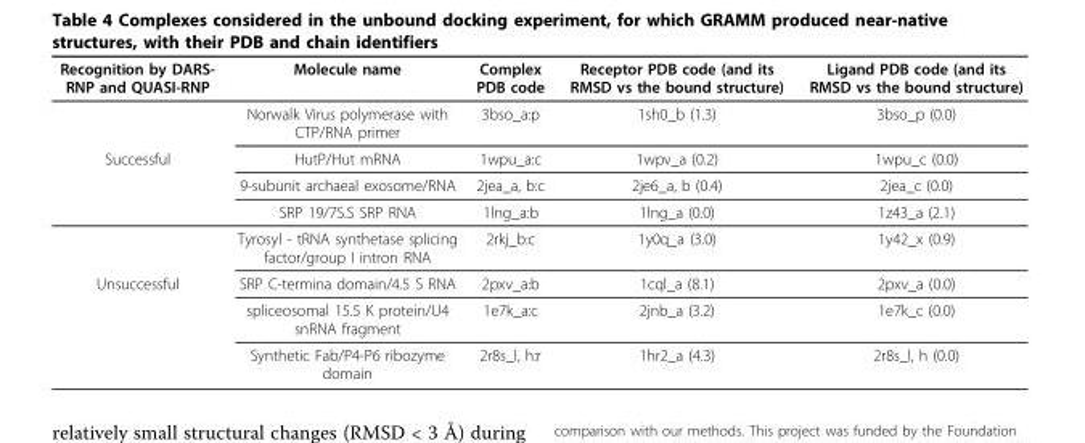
<table><thead><tr><td>Recognition by DARS- RNP and QUASI-RNP</td><td>Molecule name</td><td>Complex PDB code</td><td>Receptor PDB code (and its RMSD vs the bound structure)</td><td>Ligand PDB code (and its RMSD vs the bound structure)</td></tr></thead><tbody><tr><td></td><td>Norwalk Virus polymerase with CTP/RNA primer</td><td>3bso_a:p</td><td>1sh0_b (1.3)</td><td>3bso_p (0.0)</td></tr><tr><td rowspan="4">Successful</td><td>HutP/Hut mRNA</td><td>1wpu_a:c</td><td>1wpv_a (0.2)</td><td>1wpu_c (0.0)</td></tr><tr><td>9-subunit archaeal exosome/RNA</td><td>2jea_a, b:c</td><td>2je6_a, b (0.4)</td><td>2jea_c (0.0)</td></tr><tr><td>SRP 19/7S.S SRP RNA</td><td>1lng_a:b</td><td>1lng_a (0.0)</td><td>1z43_a (2.1)</td></tr><tr><td>Tyrosyl - tRNA synthetase splicing factor/group I intron RNA</td><td>2rkj_b:c</td><td>1y0q_a (3.0)</td><td>1y42_x (0.9)</td></tr><tr><td rowspan="3">Unsuccessful</td><td>SRP C-termina domain/4.5 S RNA</td><td>2pxv_a:b</td><td>1cql_a (8.1)</td><td>2pxv_a (0.0)</td></tr><tr><td>spliceosomal 15.5 K protein/U4 snRNA fragment</td><td>1e7k_a:c</td><td>2jnb_a (3.2)</td><td>1e7k_c (0.0)</td></tr><tr><td>Synthetic Fab/P4-P6 ribozyme domain</td><td>2r8s_l, h:r</td><td>1hr2_a (4.3)</td><td>2r8s_l, h (0.0)</td></tr></tbody></table>